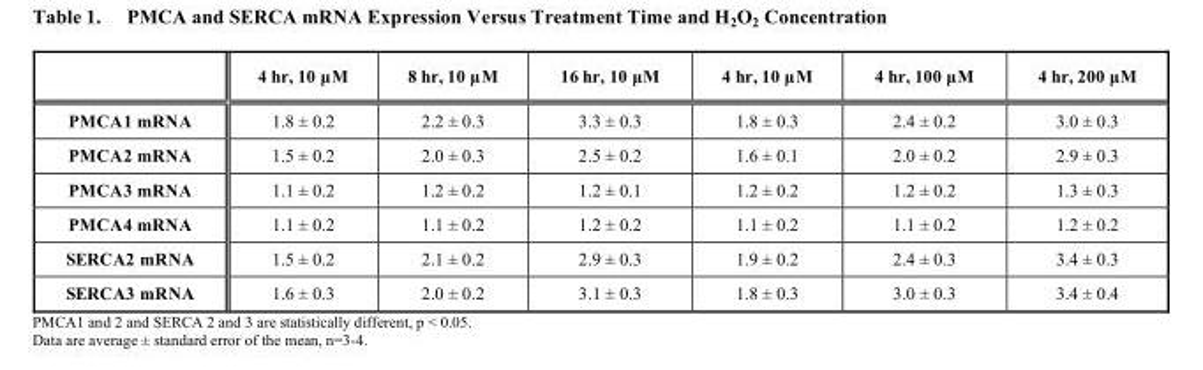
<table><thead><tr><td></td><td>4 hr, 10 μM</td><td>8 hr, 10 μM</td><td>16 hr, 10 μM</td><td>4 hr, 10 μM</td><td>4 hr, 100 μM</td><td>4 hr, 200 μM</td></tr></thead><tbody><tr><td>PMCA1 mRNA</td><td>1.8 ± 0.2</td><td>2.2 ± 0.3</td><td>3.3 ± 0.3</td><td>1.8 ± 0.3</td><td>2.4 ± 0.2</td><td>3.0 ± 0.3</td></tr><tr><td>PMCA2 mRNA</td><td>1.5 ± 0.2</td><td>2.0 ± 0.3</td><td>2.5 ± 0.2</td><td>1.6 ± 0.1</td><td>2.0 ± 0.2</td><td>2.9 ± 0.3</td></tr><tr><td>PMCA3 mRNA</td><td>1.1 ± 0.2</td><td>1.2 ± 0.2</td><td>1.2 ± 0.1</td><td>1.2 ± 0.2</td><td>1.2 ± 0.2</td><td>1.3 ± 0.3</td></tr><tr><td>PMCA4 mRNA</td><td>1.1 ± 0.2</td><td>1.1 ± 0.2</td><td>1.2 ± 0.2</td><td>1.1 ± 0.2</td><td>1.1 ± 0.2</td><td>1.2 ± 0.2</td></tr><tr><td>SERCA2 mRNA</td><td>1.5 ± 0.2</td><td>2.1 ± 0.2</td><td>2.9 ± 0.3</td><td>1.9 ± 0.2</td><td>2.4 ± 0.3</td><td>3.4 ± 0.3</td></tr><tr><td>SERCA3 mRNA</td><td>1.6 ± 0.3</td><td>2.0 ± 0.2</td><td>3.1 ± 0.3</td><td>1.8 ± 0.3</td><td>3.0 ± 0.3</td><td>3.4 ± 0.4</td></tr></tbody></table>